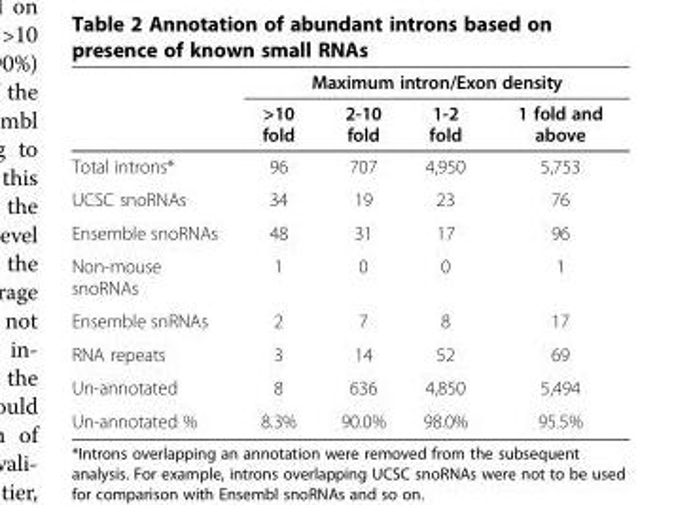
<table><thead><tr><td rowspan="2"></td><td colspan="4">Maximum intron/Exon density</td></tr><tr><td>&gt;10 fold</td><td>2-10 fold</td><td>1-2 fold</td><td>1 fold and above</td></tr></thead><tbody><tr><td>Total introns*</td><td>96</td><td>707</td><td>4,950</td><td>5,753</td></tr><tr><td>UCSC snoRNAs</td><td>34</td><td>19</td><td>23</td><td>76</td></tr><tr><td>Ensemble snoRNAs</td><td>48</td><td>31</td><td>17</td><td>96</td></tr><tr><td>Non-mouse snoRNAs</td><td>1</td><td>0</td><td>0</td><td>1</td></tr><tr><td>Ensemble snRNAs</td><td>2</td><td>7</td><td>8</td><td>17</td></tr><tr><td>RNA repeats</td><td>3</td><td>14</td><td>52</td><td>69</td></tr><tr><td>Un-annotated</td><td>8</td><td>636</td><td>4,850</td><td>5,494</td></tr><tr><td>Un-annotated %</td><td>8.3%</td><td>90.0%</td><td>98.0%</td><td>95.5%</td></tr></tbody></table>